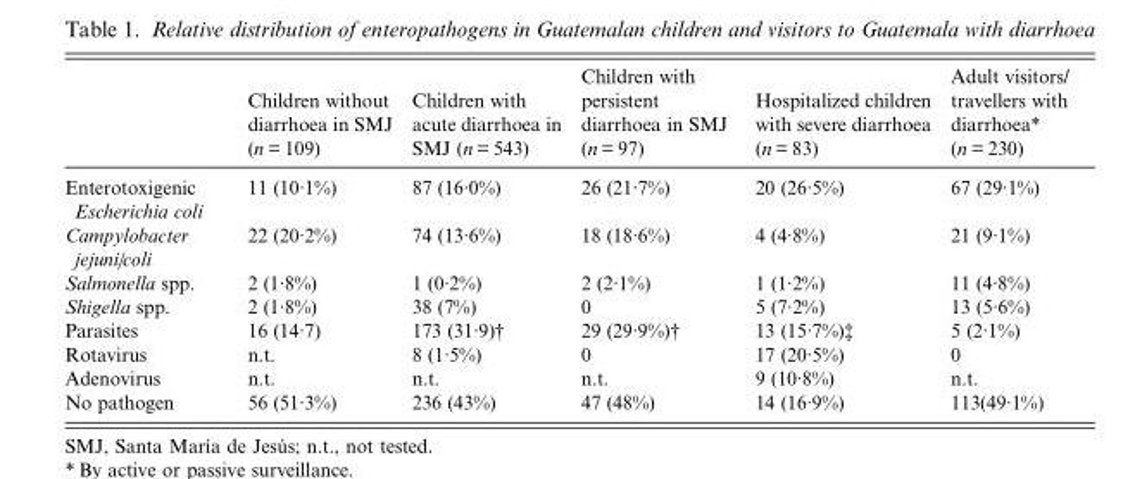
<table><thead><tr><td></td><td>Children without diarrhoea in SMJ (n = 109)</td><td>Children with acute diarrhoea in SMJ (n = 543)</td><td>Children with persistent diarrhoea in SMJ (n = 97)</td><td>Hospitalized children with severe diarrhoea (n = 83)</td><td>Adult visitors/ travellers with diarrhoea* (n = 230)</td></tr></thead><tbody><tr><td>Enterotoxigenic Escherichia coli</td><td>11 (10·1%)</td><td>87 (16·0%)</td><td>26 (21·7%)</td><td>20 (26·5%)</td><td>67 (29·1%)</td></tr><tr><td>Campylobacter jejuni/coli</td><td>22 (20·2%)</td><td>74 (13·6%)</td><td>18 (18·6%)</td><td>4 (4·8%)</td><td>21 (9·1%)</td></tr><tr><td>Salmonella spp.</td><td>2 (1·8%)</td><td>1 (0·2%)</td><td>2 (2·1%)</td><td>1 (1·2%)</td><td>11 (4·8%)</td></tr><tr><td>Shigella spp.</td><td>2 (1·8%)</td><td>38 (7%)</td><td>0</td><td>5 (7·2%)</td><td>13 (5·6%)</td></tr><tr><td>Parasites</td><td>16 (14·7)</td><td>173 (31·9)†</td><td>29 (29·9%)†</td><td>13 (15·7%)‡</td><td>5 (2·1%)</td></tr><tr><td>Rotavirus</td><td>n.t.</td><td>8 (1·5%)</td><td>0</td><td>17 (20·5%)</td><td>0</td></tr><tr><td>Adenovirus</td><td>n.t.</td><td>n.t.</td><td>n.t.</td><td>9 (10·8%)</td><td>n.t.</td></tr><tr><td>No pathogen</td><td>56 (51·3%)</td><td>236 (43%)</td><td>47 (48%)</td><td>14 (16·9%)</td><td>113(49·1%)</td></tr></tbody></table>